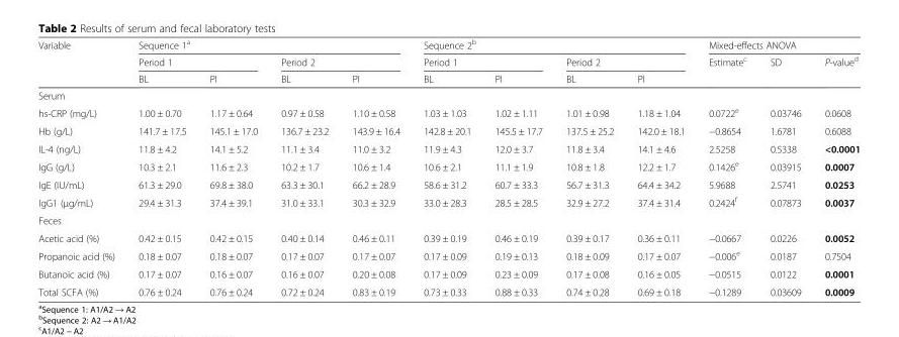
<table><thead><tr><td rowspan="3">Variable</td><td colspan="4">Sequence 1<sup>a</sup></td><td colspan="4">Sequence 2<sup>b</sup></td><td colspan="3">Mixed-effects ANOVA</td></tr><tr><td colspan="2">Period 1</td><td colspan="2">Period 2</td><td colspan="2">Period 1</td><td colspan="2">Period 2</td><td rowspan="2">Estimate<sup>c</sup></td><td rowspan="2">SD</td><td rowspan="2">P-value<sup>d</sup></td></tr><tr><td>BL</td><td>PI</td><td>BL</td><td>PI</td><td>BL</td><td>PI</td><td>BL</td><td>PI</td></tr></thead><tbody><tr><td colspan="12">Serum</td></tr><tr><td>hs-CRP (mg/L)</td><td>1.00 ± 0.70</td><td>1.17 ± 0.64</td><td>0.97 ± 0.58</td><td>1.10 ± 0.58</td><td>1.03 ± 1.03</td><td>1.02 ± 1.11</td><td>1.01 ± 0.98</td><td>1.18 ± 1.04</td><td>0.0722<sup>e</sup></td><td>0.03746</td><td>0.0608</td></tr><tr><td>Hb (g/L)</td><td>141.7 ± 17.5</td><td>145.1 ± 17.0</td><td>136.7 ± 23.2</td><td>143.9 ± 16.4</td><td>142.8 ± 20.1</td><td>145.5 ± 17.7</td><td>137.5 ± 25.2</td><td>142.0 ± 18.1</td><td>−0.8654</td><td>1.6781</td><td>0.6088</td></tr><tr><td>IL-4 (ng/L)</td><td>11.8 ± 4.2</td><td>14.1 ± 5.2</td><td>11.1 ± 3.4</td><td>11.0 ± 3.2</td><td>11.9 ± 4.3</td><td>12.0 ± 3.7</td><td>11.8 ± 3.4</td><td>14.1 ± 4.6</td><td>2.5258</td><td>0.5338</td><td>&lt;0.0001</td></tr><tr><td>IgG (g/L)</td><td>10.3 ± 2.1</td><td>11.6 ± 2.3</td><td>10.2 ± 1.7</td><td>10.6 ± 1.4</td><td>10.6 ± 2.1</td><td>11.1 ± 1.9</td><td>10.8 ± 1.8</td><td>12.2 ± 1.7</td><td>0.1426<sup>e</sup></td><td>0.03915</td><td>0.0007</td></tr><tr><td>IgE (IU/mL)</td><td>61.3 ± 29.0</td><td>69.8 ± 38.0</td><td>63.3 ± 30.1</td><td>66.2 ± 28.9</td><td>58.6 ± 31.2</td><td>60.7 ± 33.3</td><td>56.7 ± 31.3</td><td>64.4 ± 34.2</td><td>5.9688</td><td>2.5741</td><td>0.0253</td></tr><tr><td>IgG1 (μg/mL)</td><td>29.4 ± 31.3</td><td>37.4 ± 39.1</td><td>31.0 ± 33.1</td><td>30.3 ± 32.9</td><td>33.0 ± 28.3</td><td>28.5 ± 28.5</td><td>32.9 ± 27.2</td><td>37.4 ± 31.4</td><td>0.2424<sup>f</sup></td><td>0.07873</td><td>0.0037</td></tr><tr><td colspan="12">Feces</td></tr><tr><td>Acetic acid (%)</td><td>0.42 ± 0.15</td><td>0.42 ± 0.15</td><td>0.40 ± 0.14</td><td>0.46 ± 0.11</td><td>0.39 ± 0.19</td><td>0.46 ± 0.19</td><td>0.39 ± 0.17</td><td>0.36 ± 0.11</td><td>−0.0667</td><td>0.0226</td><td>0.0052</td></tr><tr><td>Propanoic acid (%)</td><td>0.18 ± 0.07</td><td>0.18 ± 0.07</td><td>0.17 ± 0.07</td><td>0.17 ± 0.07</td><td>0.17 ± 0.09</td><td>0.19 ± 0.13</td><td>0.18 ± 0.09</td><td>0.17 ± 0.07</td><td>−0.006<sup>e</sup></td><td>0.0187</td><td>0.7504</td></tr><tr><td>Butanoic acid (%)</td><td>0.17 ± 0.07</td><td>0.16 ± 0.07</td><td>0.16 ± 0.07</td><td>0.20 ± 0.08</td><td>0.17 ± 0.09</td><td>0.23 ± 0.09</td><td>0.17 ± 0.08</td><td>0.16 ± 0.05</td><td>−0.0515</td><td>0.0122</td><td>0.0001</td></tr><tr><td>Total SCFA (%)</td><td>0.76 ± 0.24</td><td>0.76 ± 0.24</td><td>0.72 ± 0.24</td><td>0.83 ± 0.19</td><td>0.73 ± 0.33</td><td>0.88 ± 0.33</td><td>0.74 ± 0.28</td><td>0.69 ± 0.18</td><td>−0.1289</td><td>0.03609</td><td>0.0009</td></tr></tbody></table>